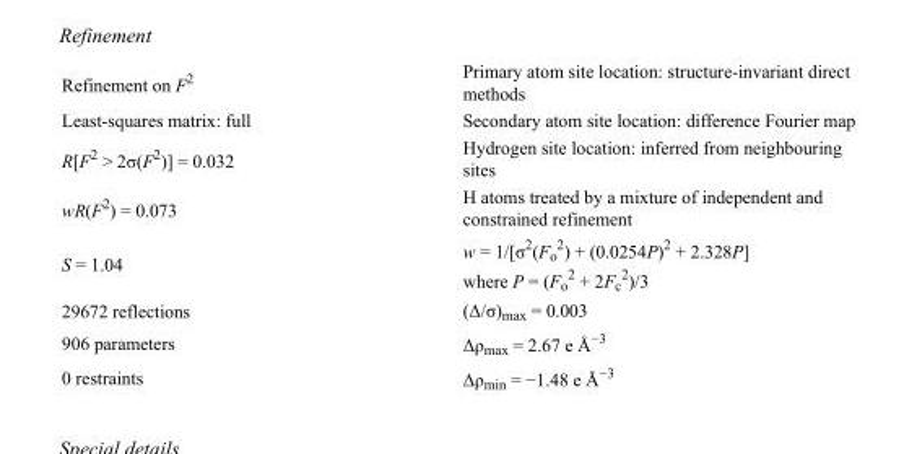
<table><tbody><tr><td>Refinement on F<sup>2</sup></td><td>Primary atom site location: structure-invariant direct methods</td></tr><tr><td>Least-squares matrix: full</td><td>Secondary atom site location: difference Fourier map</td></tr><tr><td>R[F<sup>2</sup> &gt; 2σ(F<sup>2</sup>)] = 0.032</td><td>Hydrogen site location: inferred from neighbouring sites</td></tr><tr><td>wR(F<sup>2</sup>) = 0.073</td><td>H atoms treated by a mixture of independent and constrained refinement</td></tr><tr><td>S = 1.04</td><td>w = 1/[σ<sup>2</sup>(F<sub>o</sub> <sup>2</sup>) + (0.0254P)<sup>2</sup> + 2.328P] where P = (F<sub>o</sub> <sup>2</sup> + 2F<sub>c</sub> <sup>2</sup>)/3</td></tr><tr><td>29672 reflections</td><td>(Δ/σ)<sub>max</sub> = 0.003</td></tr><tr><td>906 parameters</td><td>Δρ<sub>max</sub> = 2.67 e Å<sup>−3</sup></td></tr><tr><td>0 restraints</td><td>Δρ<sub>min</sub> = −1.48 e Å<sup>−3</sup></td></tr></tbody></table>